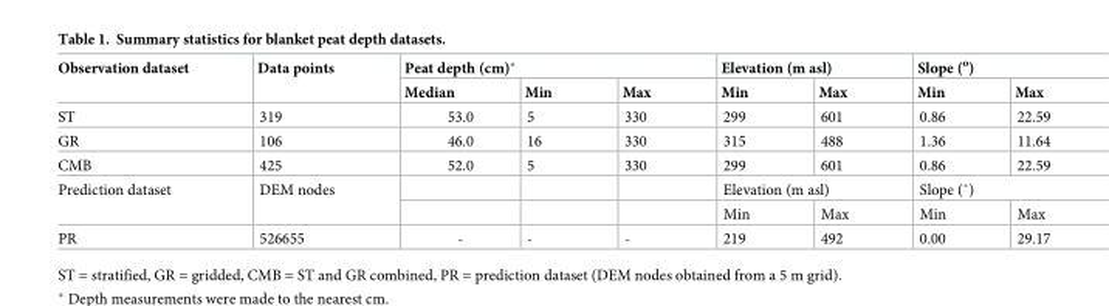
<table><thead><tr><td rowspan="2">Observation dataset</td><td rowspan="2">Data points</td><td colspan="3">Peat depth (cm)*</td><td colspan="2">Elevation (m asl)</td><td colspan="2">Slope (<sup>o</sup>)</td></tr><tr><td>Median</td><td>Min</td><td>Max</td><td>Min</td><td>Max</td><td>Min</td><td>Max</td></tr></thead><tbody><tr><td>ST</td><td>319</td><td>53.0</td><td>5</td><td>330</td><td>299</td><td>601</td><td>0.86</td><td>22.59</td></tr><tr><td>GR</td><td>106</td><td>46.0</td><td>16</td><td>330</td><td>315</td><td>488</td><td>1.36</td><td>11.64</td></tr><tr><td>CMB</td><td>425</td><td>52.0</td><td>5</td><td>330</td><td>299</td><td>601</td><td>0.86</td><td>22.59</td></tr><tr><td rowspan="2">Prediction dataset</td><td rowspan="2">DEM nodes</td><td></td><td></td><td></td><td colspan="2">Elevation (m asl)</td><td colspan="2">Slope (˚)</td></tr><tr><td></td><td></td><td></td><td>Min</td><td>Max</td><td>Min</td><td>Max</td></tr><tr><td>PR</td><td>526655</td><td>-</td><td>-</td><td>-</td><td>219</td><td>492</td><td>0.00</td><td>29.17</td></tr></tbody></table>